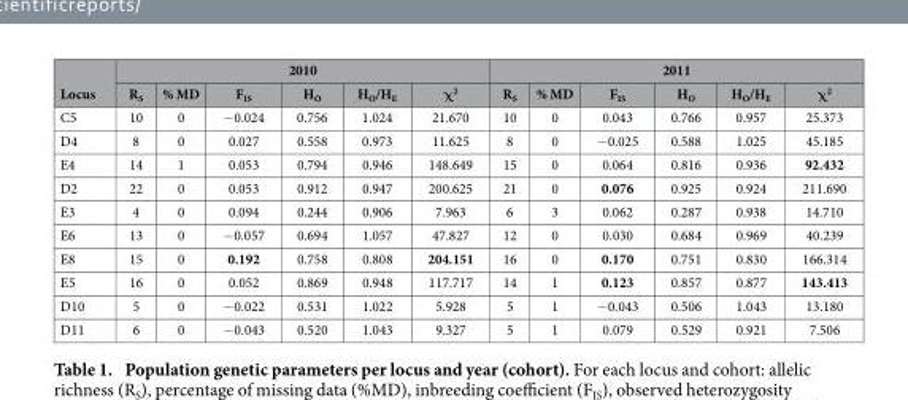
<table><thead><tr><td rowspan="2">Locus</td><td colspan="6">2010</td><td colspan="6">2011</td></tr><tr><td>R<sub>S</sub></td><td>% MD</td><td>F<sub>IS</sub></td><td>H<sub>O</sub></td><td>H<sub>O</sub>/H<sub>E</sub></td><td>χ<sup>2</sup></td><td>R<sub>S</sub></td><td>% MD</td><td>F<sub>IS</sub></td><td>H<sub>O</sub></td><td>H<sub>O</sub>/H<sub>E</sub></td><td>χ<sup>2</sup></td></tr></thead><tbody><tr><td>C5</td><td>10</td><td>0</td><td>− 0.024</td><td>0.756</td><td>1.024</td><td>21.670</td><td>10</td><td>0</td><td>0.043</td><td>0.766</td><td>0.957</td><td>25.373</td></tr><tr><td>D4</td><td>8</td><td>0</td><td>0.027</td><td>0.558</td><td>0.973</td><td>11.625</td><td>8</td><td>0</td><td>− 0.025</td><td>0.588</td><td>1.025</td><td>45.185</td></tr><tr><td>E4</td><td>14</td><td>1</td><td>0.053</td><td>0.794</td><td>0.946</td><td>148.649</td><td>15</td><td>0</td><td>0.064</td><td>0.816</td><td>0.936</td><td>92.432</td></tr><tr><td>D2</td><td>22</td><td>0</td><td>0.053</td><td>0.912</td><td>0.947</td><td>200.625</td><td>21</td><td>0</td><td>0.076</td><td>0.925</td><td>0.924</td><td>211.690</td></tr><tr><td>E3</td><td>4</td><td>0</td><td>0.094</td><td>0.244</td><td>0.906</td><td>7.963</td><td>6</td><td>3</td><td>0.062</td><td>0.287</td><td>0.938</td><td>14.710</td></tr><tr><td>E6</td><td>13</td><td>0</td><td>− 0.057</td><td>0.694</td><td>1.057</td><td>47.827</td><td>12</td><td>0</td><td>0.030</td><td>0.684</td><td>0.969</td><td>40.239</td></tr><tr><td>E8</td><td>15</td><td>0</td><td>0.192</td><td>0.758</td><td>0.808</td><td>204.151</td><td>16</td><td>0</td><td>0.170</td><td>0.751</td><td>0.830</td><td>166.314</td></tr><tr><td>E5</td><td>16</td><td>0</td><td>0.052</td><td>0.869</td><td>0.948</td><td>117.717</td><td>14</td><td>1</td><td>0.123</td><td>0.857</td><td>0.877</td><td>143.413</td></tr><tr><td>D10</td><td>5</td><td>0</td><td>− 0.022</td><td>0.531</td><td>1.022</td><td>5.928</td><td>5</td><td>1</td><td>− 0.043</td><td>0.506</td><td>1.043</td><td>13.180</td></tr><tr><td>D11</td><td>6</td><td>0</td><td>− 0.043</td><td>0.520</td><td>1.043</td><td>9.327</td><td>5</td><td>1</td><td>0.079</td><td>0.529</td><td>0.921</td><td>7.506</td></tr></tbody></table>